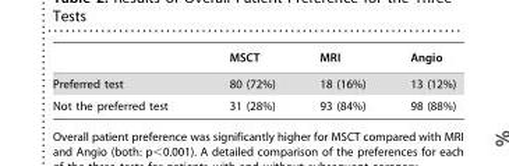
<table><thead><tr><td></td><td>MSCT</td><td>MRI</td><td>Angio</td></tr></thead><tbody><tr><td>Preferred test</td><td>80 (72%)</td><td>18 (16%)</td><td>13 (12%)</td></tr><tr><td>Not the preferred test</td><td>31 (28%)</td><td>93 (84%)</td><td>98 (88%)</td></tr></tbody></table>